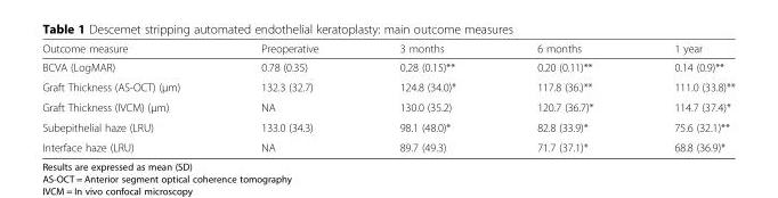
<table><thead><tr><td>Outcome measure</td><td>Preoperative</td><td>3 months</td><td>6 months</td><td>1 year</td></tr></thead><tbody><tr><td>BCVA (LogMAR)</td><td>0.78 (0.35)</td><td>0.28 (0.15)**</td><td>0.20 (0.11)**</td><td>0.14 (0.9)**</td></tr><tr><td>Graft Thickness (AS-OCT) (μm)</td><td>132.3 (32.7)</td><td>124.8 (34.0)*</td><td>117.8 (36.)**</td><td>111.0 (33.8)**</td></tr><tr><td>Graft Thickness (IVCM) (μm)</td><td>NA</td><td>130.0 (35.2)</td><td>120.7 (36.7)*</td><td>114.7 (37.4)*</td></tr><tr><td>Subepithelial haze (LRU)</td><td>133.0 (34.3)</td><td>98.1 (48.0)*</td><td>82.8 (33.9)*</td><td>75.6 (32.1)**</td></tr><tr><td>Interface haze (LRU)</td><td>NA</td><td>89.7 (49.3)</td><td>71.7 (37.1)*</td><td>68.8 (36.9)*</td></tr></tbody></table>